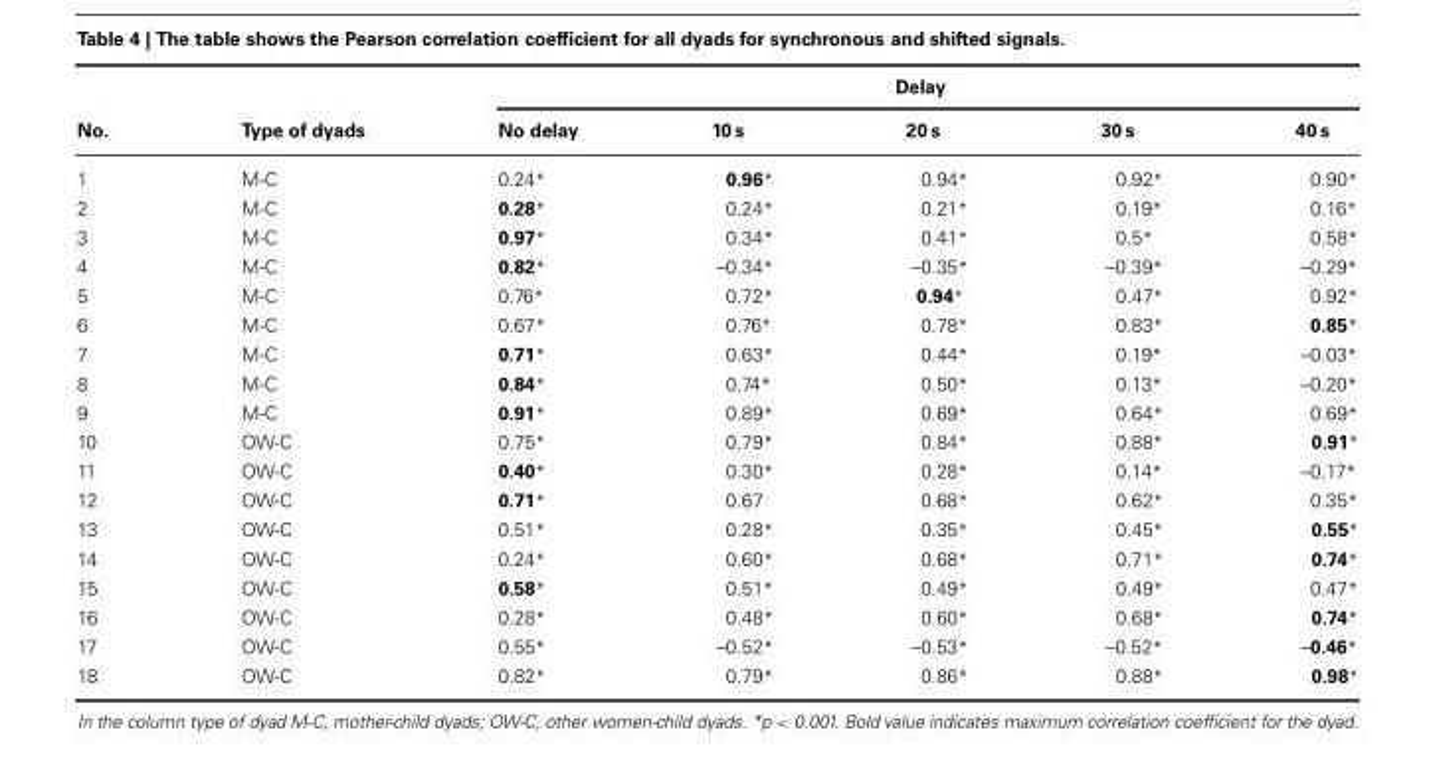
<table><thead><tr><td rowspan="2">No.</td><td rowspan="2">Type of dyads</td><td colspan="5">Delay</td></tr><tr><td>No delay</td><td>10 s</td><td>20 s</td><td>30 s</td><td>40 s</td></tr></thead><tbody><tr><td>1</td><td>M-C</td><td>0.24*</td><td>0.96*</td><td>0.94*</td><td>0.92*</td><td>0.90*</td></tr><tr><td>2</td><td>M-C</td><td>0.28*</td><td>0.24*</td><td>0.21*</td><td>0.19*</td><td>0.16*</td></tr><tr><td>3</td><td>M-C</td><td>0.97*</td><td>0.34*</td><td>0.41*</td><td>0.5*</td><td>0.58*</td></tr><tr><td>4</td><td>M-C</td><td>0.82*</td><td>–0.34*</td><td>–0.35*</td><td>–0.39*</td><td>–0.29*</td></tr><tr><td>5</td><td>M-C</td><td>0.76*</td><td>0.72*</td><td>0.94*</td><td>0.47*</td><td>0.92*</td></tr><tr><td>6</td><td>M-C</td><td>0.67*</td><td>0.76*</td><td>0.78*</td><td>0.83*</td><td>0.85*</td></tr><tr><td>7</td><td>M-C</td><td>0.71*</td><td>0.63*</td><td>0.44*</td><td>0.19*</td><td>–0.03*</td></tr><tr><td>8</td><td>M-C</td><td>0.84*</td><td>0.74*</td><td>0.50*</td><td>0.13*</td><td>–0.20*</td></tr><tr><td>9</td><td>M-C</td><td>0.91*</td><td>0.89*</td><td>0.69*</td><td>0.64*</td><td>0.69*</td></tr><tr><td>10</td><td>OW-C</td><td>0.75*</td><td>0.79*</td><td>0.84*</td><td>0.88*</td><td>0.91*</td></tr><tr><td>11</td><td>OW-C</td><td>0.40*</td><td>0.30*</td><td>0.28*</td><td>0.14*</td><td>–0.17*</td></tr><tr><td>12</td><td>OW-C</td><td>0.71*</td><td>0.67</td><td>0.68*</td><td>0.62*</td><td>0.35*</td></tr><tr><td>13</td><td>OW-C</td><td>0.51*</td><td>0.28*</td><td>0.35*</td><td>0.45*</td><td>0.55*</td></tr><tr><td>14</td><td>OW-C</td><td>0.24*</td><td>0.60*</td><td>0.68*</td><td>0.71*</td><td>0.74*</td></tr><tr><td>15</td><td>OW-C</td><td>0.58*</td><td>0.51*</td><td>0.49*</td><td>0.49*</td><td>0.47*</td></tr><tr><td>16</td><td>OW-C</td><td>0.28*</td><td>0.48*</td><td>0.60*</td><td>0.68*</td><td>0.74*</td></tr><tr><td>17</td><td>OW-C</td><td>0.55*</td><td>–0.52*</td><td>–0.53*</td><td>–0.52*</td><td>–0.46*</td></tr><tr><td>18</td><td>OW-C</td><td>0.82*</td><td>0.79*</td><td>0.86*</td><td>0.88*</td><td>0.98*</td></tr></tbody></table>